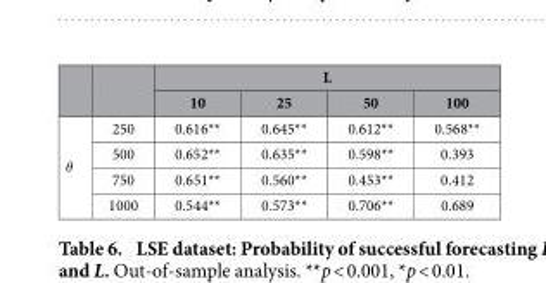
<table><thead><tr><td rowspan="2"></td><td rowspan="2"></td><td colspan="4">L</td></tr><tr><td>10</td><td>25</td><td>50</td><td>100</td></tr></thead><tbody><tr><td rowspan="4">θ</td><td>250</td><td>0.616**</td><td>0.645**</td><td>0.612**</td><td>0.568**</td></tr><tr><td>500</td><td>0.652**</td><td>0.635**</td><td>0.598**</td><td>0.393</td></tr><tr><td>750</td><td>0.651**</td><td>0.560**</td><td>0.453**</td><td>0.412</td></tr><tr><td>1000</td><td>0.544**</td><td>0.573**</td><td>0.706**</td><td>0.689</td></tr></tbody></table>